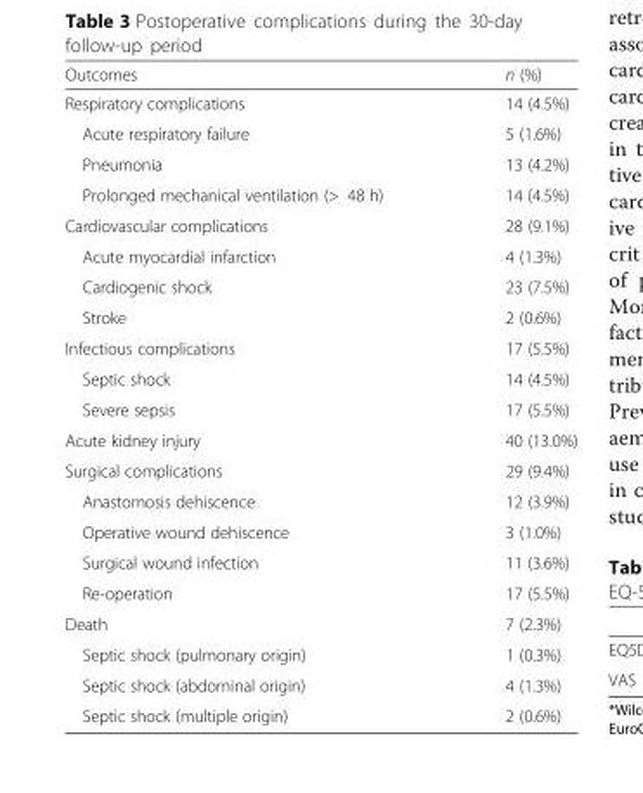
<table><thead><tr><td>Outcomes</td><td>n (%)</td></tr></thead><tbody><tr><td>Respiratory complications</td><td>14 (4.5%)</td></tr><tr><td>Acute respiratory failure</td><td>5 (1.6%)</td></tr><tr><td>Pneumonia</td><td>13 (4.2%)</td></tr><tr><td>Prolonged mechanical ventilation (&gt; 48 h)</td><td>14 (4.5%)</td></tr><tr><td>Cardiovascular complications</td><td>28 (9.1%)</td></tr><tr><td>Acute myocardial infarction</td><td>4 (1.3%)</td></tr><tr><td>Cardiogenic shock</td><td>23 (7.5%)</td></tr><tr><td>Stroke</td><td>2 (0.6%)</td></tr><tr><td>Infectious complications</td><td>17 (5.5%)</td></tr><tr><td>Septic shock</td><td>14 (4.5%)</td></tr><tr><td>Severe sepsis</td><td>17 (5.5%)</td></tr><tr><td>Acute kidney injury</td><td>40 (13.0%)</td></tr><tr><td>Surgical complications</td><td>29 (9.4%)</td></tr><tr><td>Anastomosis dehiscence</td><td>12 (3.9%)</td></tr><tr><td>Operative wound dehiscence</td><td>3 (1.0%)</td></tr><tr><td>Surgical wound infection</td><td>11 (3.6%)</td></tr><tr><td>Re-operation</td><td>17 (5.5%)</td></tr><tr><td>Death</td><td>7 (2.3%)</td></tr><tr><td>Septic shock (pulmonary origin)</td><td>1 (0.3%)</td></tr><tr><td>Septic shock (abdominal origin)</td><td>4 (1.3%)</td></tr><tr><td>Septic shock (multiple origin)</td><td>2 (0.6%)</td></tr></tbody></table>